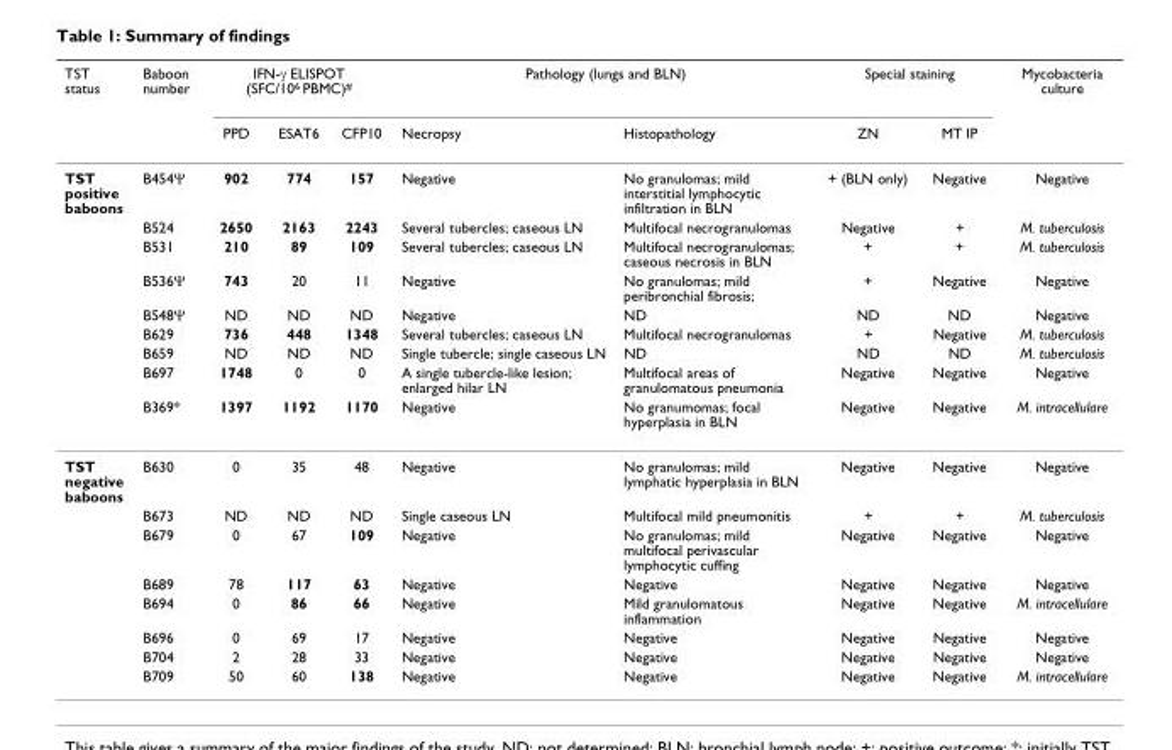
<table><thead><tr><td rowspan="2">TST status</td><td rowspan="2">Baboon number</td><td colspan="3">IFN-γ ELISPOT (SFC/10<sup>6</sup> PBMC)<sup>#</sup></td><td colspan="2">Pathology (lungs and BLN)</td><td colspan="2">Special staining</td><td rowspan="2">Mycobacteria culture</td></tr><tr><td>PPD</td><td>ESAT6</td><td>CFP10</td><td>Necropsy</td><td>Histopathology</td><td>ZN</td><td>MT IP</td></tr></thead><tbody><tr><td rowspan="9">TST positive baboons</td><td>B454Ψ</td><td>902</td><td>774</td><td>157</td><td>Negative</td><td>No granulomas; mild interstitial lymphocytic infiltration in BLN</td><td>+ (BLN only)</td><td>Negative</td><td>Negative</td></tr><tr><td>B524</td><td>2650</td><td>2163</td><td>2243</td><td>Several tubercles; caseous LN</td><td>Multifocal necrogranulomas</td><td>Negative</td><td>+</td><td>M. tuberculosis</td></tr><tr><td>B531</td><td>210</td><td>89</td><td>109</td><td>Several tubercles; caseous LN</td><td>Multifocal necrogranulomas; caseous necrosis in BLN</td><td>+</td><td>+</td><td>M. tuberculosis</td></tr><tr><td>B536Ψ</td><td>743</td><td>20</td><td>11</td><td>Negative</td><td>No granulomas; mild peribronchial fibrosis;</td><td>+</td><td>Negative</td><td>Negative</td></tr><tr><td>B548Ψ</td><td>ND</td><td>ND</td><td>ND</td><td>Negative</td><td>ND</td><td>ND</td><td>ND</td><td>Negative</td></tr><tr><td>B629</td><td>736</td><td>448</td><td>1348</td><td>Several tubercles; caseous LN</td><td>Multifocal necrogranulomas</td><td>+</td><td>Negative</td><td>M. tuberculosis</td></tr><tr><td>B659</td><td>ND</td><td>ND</td><td>ND</td><td>Single tubercle; single caseous LN</td><td>ND</td><td>ND</td><td>ND</td><td>M. tuberculosis</td></tr><tr><td>B697</td><td>1748</td><td>0</td><td>0</td><td>A single tubercle-like lesion; enlarged hilar LN</td><td>Multifocal areas of granulomatous pneumonia</td><td>Negative</td><td>Negative</td><td>Negative</td></tr><tr><td>B369*</td><td>1397</td><td>1192</td><td>1170</td><td>Negative</td><td>No granumomas; focal hyperplasia in BLN</td><td>Negative</td><td>Negative</td><td>M. intracellulare</td></tr><tr><td rowspan="8">TST negative baboons</td><td>B630</td><td>0</td><td>35</td><td>48</td><td>Negative</td><td>No granulomas; mild lymphatic hyperplasia in BLN</td><td>Negative</td><td>Negative</td><td>Negative</td></tr><tr><td>B673</td><td>ND</td><td>ND</td><td>ND</td><td>Single caseous LN</td><td>Multifocal mild pneumonitis</td><td>+</td><td>+</td><td>M. tuberculosis</td></tr><tr><td>B679</td><td>0</td><td>67</td><td>109</td><td>Negative</td><td>No granulomas; mild multifocal perivascular lymphocytic cuffing</td><td>Negative</td><td>Negative</td><td>Negative</td></tr><tr><td>B689</td><td>78</td><td>117</td><td>63</td><td>Negative</td><td>Negative</td><td>Negative</td><td>Negative</td><td>Negative</td></tr><tr><td>B694</td><td>0</td><td>86</td><td>66</td><td>Negative</td><td>Mild granulomatous inflammation</td><td>Negative</td><td>Negative</td><td>M. intracellulare</td></tr><tr><td>B696</td><td>0</td><td>69</td><td>17</td><td>Negative</td><td>Negative</td><td>Negative</td><td>Negative</td><td>Negative</td></tr><tr><td>B704</td><td>2</td><td>28</td><td>33</td><td>Negative</td><td>Negative</td><td>Negative</td><td>Negative</td><td>Negative</td></tr><tr><td>B709</td><td>50</td><td>60</td><td>138</td><td>Negative</td><td>Negative</td><td>Negative</td><td>Negative</td><td>M. intracellulare</td></tr></tbody></table>